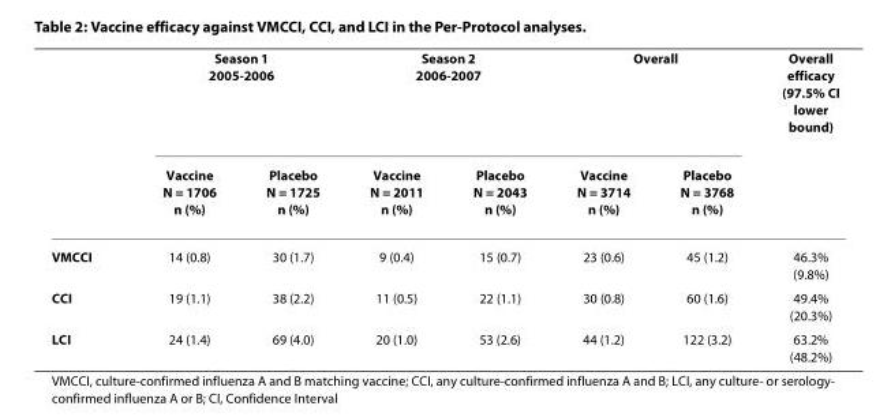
<table><thead><tr><td rowspan="2"></td><td colspan="2">Season 1 2005-2006</td><td colspan="2">Season 2 2006-2007</td><td colspan="2">Overall</td><td rowspan="2">Overall efficacy (97.5% CI lower bound)</td></tr><tr><td>Vaccine N = 1706 n (%)</td><td>Placebo N = 1725 n (%)</td><td>Vaccine N = 2011 n (%)</td><td>Placebo N = 2043 n (%)</td><td>Vaccine N = 3714 n (%)</td><td>Placebo N = 3768 n (%)</td></tr></thead><tbody><tr><td>VMCCI</td><td>14 (0.8)</td><td>30 (1.7)</td><td>9 (0.4)</td><td>15 (0.7)</td><td>23 (0.6)</td><td>45 (1.2)</td><td>46.3% (9.8%)</td></tr><tr><td>CCI</td><td>19 (1.1)</td><td>38 (2.2)</td><td>11 (0.5)</td><td>22 (1.1)</td><td>30 (0.8)</td><td>60 (1.6)</td><td>49.4% (20.3%)</td></tr><tr><td>LCI</td><td>24 (1.4)</td><td>69 (4.0)</td><td>20 (1.0)</td><td>53 (2.6)</td><td>44 (1.2)</td><td>122 (3.2)</td><td>63.2% (48.2%)</td></tr></tbody></table>